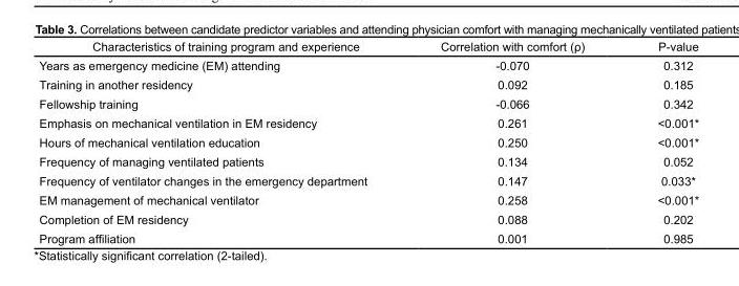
<table><thead><tr><td>Characteristics of training program and experience</td><td>Correlation with comfort (ρ)</td><td>P-value</td></tr></thead><tbody><tr><td>Years as emergency medicine (EM) attending</td><td>-0.070</td><td>0.312</td></tr><tr><td>Training in another residency</td><td>0.092</td><td>0.185</td></tr><tr><td>Fellowship training</td><td>-0.066</td><td>0.342</td></tr><tr><td>Emphasis on mechanical ventilation in EM residency</td><td>0.261</td><td>&lt;0.001*</td></tr><tr><td>Hours of mechanical ventilation education</td><td>0.250</td><td>&lt;0.001*</td></tr><tr><td>Frequency of managing ventilated patients</td><td>0.134</td><td>0.052</td></tr><tr><td>Frequency of ventilator changes in the emergency department</td><td>0.147</td><td>0.033*</td></tr><tr><td>EM management of mechanical ventilator</td><td>0.258</td><td>&lt;0.001*</td></tr><tr><td>Completion of EM residency</td><td>0.088</td><td>0.202</td></tr><tr><td>Program affiliation</td><td>0.001</td><td>0.985</td></tr></tbody></table>